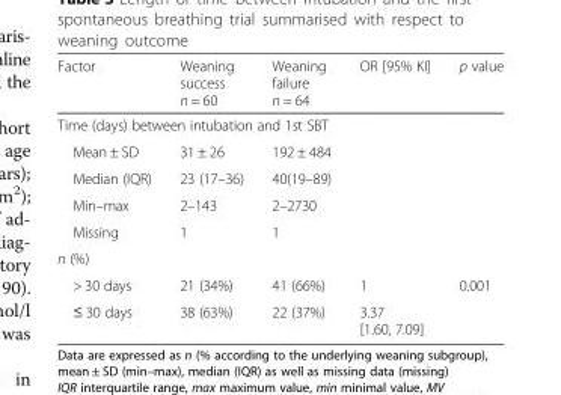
<table><thead><tr><td>Factor</td><td>Weaning success n = 60</td><td>Weaning failure n = 64</td><td>OR [95% KI]</td><td>p value</td></tr></thead><tbody><tr><td colspan="5">Time (days) between intubation and 1st SBT</td></tr><tr><td>Mean ± SD</td><td>31 ± 26</td><td>192 ± 484</td><td></td><td></td></tr><tr><td>Median (IQR)</td><td>23 (17–36)</td><td>40(19–89)</td><td></td><td></td></tr><tr><td>Min–max</td><td>2–143</td><td>2–2730</td><td></td><td></td></tr><tr><td>Missing</td><td>1</td><td>1</td><td></td><td></td></tr><tr><td colspan="5">n (%)</td></tr><tr><td>&gt; 30 days</td><td>21 (34%)</td><td>41 (66%)</td><td>1</td><td>0.001</td></tr><tr><td>≤ 30 days</td><td>38 (63%)</td><td>22 (37%)</td><td>3.37 [1.60, 7.09]</td><td></td></tr></tbody></table>